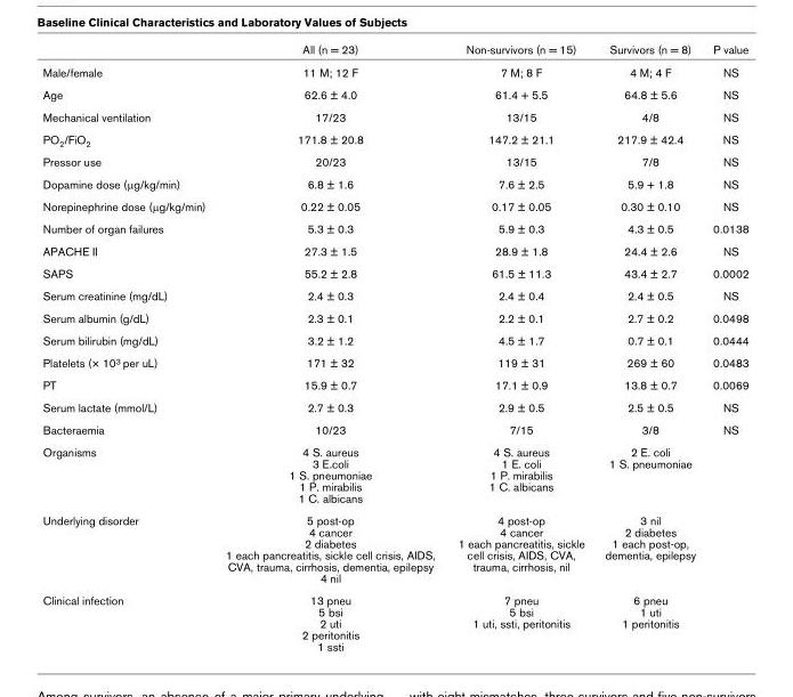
<table><thead><tr><td></td><td>All (n = 23)</td><td>Non-survivors (n = 15)</td><td>Survivors (n = 8)</td><td>P value</td></tr></thead><tbody><tr><td>Male/female</td><td>11 M; 12 F</td><td>7 M; 8 F</td><td>4 M; 4 F</td><td>NS</td></tr><tr><td>Age</td><td>62.6 ± 4.0</td><td>61.4 + 5.5</td><td>64.8 ± 5.6</td><td>NS</td></tr><tr><td>Mechanical ventilation</td><td>17/23</td><td>13/15</td><td>4/8</td><td>NS</td></tr><tr><td>PO<sub>2</sub>/FiO<sub>2</sub></td><td>171.8 ± 20.8</td><td>147.2 ± 21.1</td><td>217.9 ± 42.4</td><td>NS</td></tr><tr><td>Pressor use</td><td>20/23</td><td>13/15</td><td>7/8</td><td>NS</td></tr><tr><td>Dopamine dose (μg/kg/min)</td><td>6.8 ± 1.6</td><td>7.6 ± 2.5</td><td>5.9 + 1.8</td><td>NS</td></tr><tr><td>Norepinephrine dose (μg/kg/min)</td><td>0.22 ± 0.05</td><td>0.17 ± 0.05</td><td>0.30 ± 0.10</td><td>NS</td></tr><tr><td>Number of organ failures</td><td>5.3 ± 0.3</td><td>5.9 ± 0.3</td><td>4.3 ± 0.5</td><td>0.0138</td></tr><tr><td>APACHE II</td><td>27.3 ± 1.5</td><td>28.9 ± 1.8</td><td>24.4 ± 2.6</td><td>NS</td></tr><tr><td>SAPS</td><td>55.2 ± 2.8</td><td>61.5 ± 11.3</td><td>43.4 ± 2.7</td><td>0.0002</td></tr><tr><td>Serum creatinine (mg/dL)</td><td>2.4 ± 0.3</td><td>2.4 ± 0.4</td><td>2.4 ± 0.5</td><td>NS</td></tr><tr><td>Serum albumin (g/dL)</td><td>2.3 ± 0.1</td><td>2.2 ± 0.1</td><td>2.7 ± 0.2</td><td>0.0498</td></tr><tr><td>Serum bilirubin (mg/dL)</td><td>3.2 ± 1.2</td><td>4.5 ± 1.7</td><td>0.7 ± 0.1</td><td>0.0444</td></tr><tr><td>Platelets (× 10<sup>3</sup> per uL)</td><td>171 ± 32</td><td>119 ± 31</td><td>269 ± 60</td><td>0.0483</td></tr><tr><td>PT</td><td>15.9 ± 0.7</td><td>17.1 ± 0.9</td><td>13.8 ± 0.7</td><td>0.0069</td></tr><tr><td>Serum lactate (mmol/L)</td><td>2.7 ± 0.3</td><td>2.9 ± 0.5</td><td>2.5 ± 0.5</td><td>NS</td></tr><tr><td>Bacteraemia</td><td>10/23</td><td>7/15</td><td>3/8</td><td>NS</td></tr><tr><td>Organisms</td><td>4 S. aureus 3 E.coli 1 S. pneumoniae 1 P. mirabilis 1 C. albicans</td><td>4 S. aureus 1 E. coli 1 P. mirabilis 1 C. albicans</td><td>2 E. coli 1 S. pneumoniae</td><td></td></tr><tr><td>Underlying disorder</td><td>5 post-op 4 cancer 2 diabetes 1 each pancreatitis, sickle cell crisis, AIDS, CVA, trauma, cirrhosis, dementia, epilepsy 4 nil</td><td>4 post-op 4 cancer 1 each pancreatitis, sickle cell crisis, AIDS, CVA, trauma, cirrhosis, nil</td><td>3 nil 2 diabetes 1 each post-op, dementia, epilepsy</td><td></td></tr><tr><td>Clinical infection</td><td>13 pneu 5 bsi 2 uti 2 peritonitis 1 ssti</td><td>7 pneu 5 bsi 1 uti, ssti, peritonitis</td><td>6 pneu 1 uti 1 peritonitis</td><td></td></tr></tbody></table>